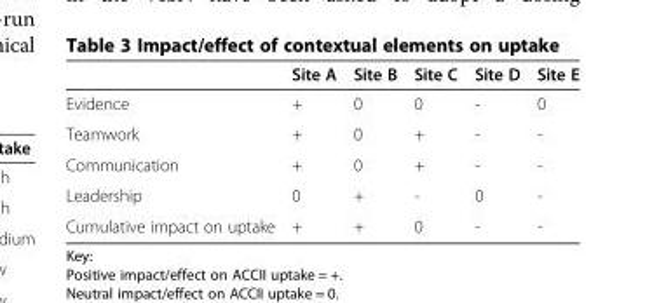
<table><thead><tr><td></td><td>Site A</td><td>Site B</td><td>Site C</td><td>Site D</td><td>Site E</td></tr></thead><tbody><tr><td>Evidence</td><td>+</td><td>0</td><td>0</td><td>-</td><td>0</td></tr><tr><td>Teamwork</td><td>+</td><td>0</td><td>+</td><td>-</td><td>-</td></tr><tr><td>Communication</td><td>+</td><td>0</td><td>+</td><td>-</td><td>-</td></tr><tr><td>Leadership</td><td>0</td><td>+</td><td>-</td><td>0</td><td>-</td></tr><tr><td>Cumulative impact on uptake</td><td>+</td><td>+</td><td>0</td><td>-</td><td>-</td></tr></tbody></table>